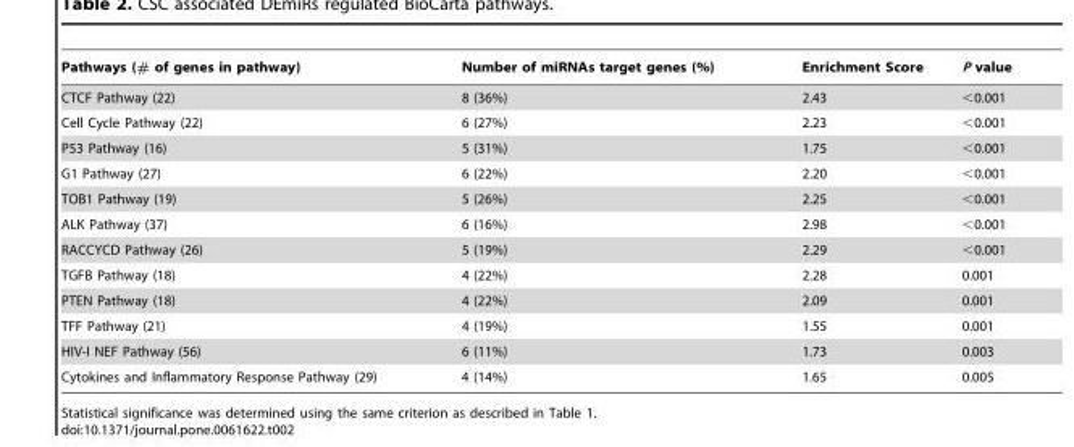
<table><thead><tr><td>Pathways (# of genes in pathway)</td><td>Number of miRNAs target genes (%)</td><td>Enrichment Score</td><td>P value</td></tr></thead><tbody><tr><td>CTCF Pathway (22)</td><td>8 (36%)</td><td>2.43</td><td>&lt;0.001</td></tr><tr><td>Cell Cycle Pathway (22)</td><td>6 (27%)</td><td>2.23</td><td>&lt;0.001</td></tr><tr><td>P53 Pathway (16)</td><td>5 (31%)</td><td>1.75</td><td>&lt;0.001</td></tr><tr><td>G1 Pathway (27)</td><td>6 (22%)</td><td>2.20</td><td>&lt;0.001</td></tr><tr><td>TOB1 Pathway (19)</td><td>5 (26%)</td><td>2.25</td><td>&lt;0.001</td></tr><tr><td>ALK Pathway (37)</td><td>6 (16%)</td><td>2.98</td><td>&lt;0.001</td></tr><tr><td>RACCYCD Pathway (26)</td><td>5 (19%)</td><td>2.29</td><td>&lt;0.001</td></tr><tr><td>TGFB Pathway (18)</td><td>4 (22%)</td><td>2.28</td><td>0.001</td></tr><tr><td>PTEN Pathway (18)</td><td>4 (22%)</td><td>2.09</td><td>0.001</td></tr><tr><td>TFF Pathway (21)</td><td>4 (19%)</td><td>1.55</td><td>0.001</td></tr><tr><td>HIV-I NEF Pathway (56)</td><td>6 (11%)</td><td>1.73</td><td>0.003</td></tr><tr><td>Cytokines and Inflammatory Response Pathway (29)</td><td>4 (14%)</td><td>1.65</td><td>0.005</td></tr></tbody></table>